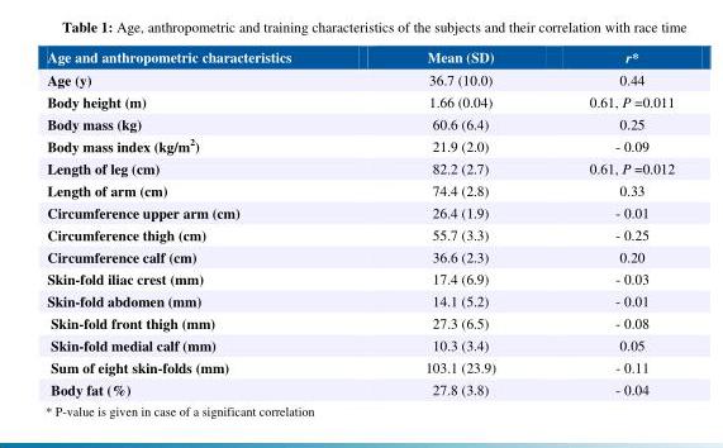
<table><thead><tr><td>Age and anthropometric characteristics</td><td>Mean (SD)</td><td>r*</td></tr></thead><tbody><tr><td>Age (y)</td><td>36.7 (10.0)</td><td>0.44</td></tr><tr><td>Body height (m)</td><td>1.66 (0.04)</td><td>0.61, P =0.011</td></tr><tr><td>Body mass (kg)</td><td>60.6 (6.4)</td><td>0.25</td></tr><tr><td>Body mass index (kg/m<sup>2</sup>)</td><td>21.9 (2.0)</td><td>- 0.09</td></tr><tr><td>Length of leg (cm)</td><td>82.2 (2.7)</td><td>0.61, P =0.012</td></tr><tr><td>Length of arm (cm)</td><td>74.4 (2.8)</td><td>0.33</td></tr><tr><td>Circumference upper arm (cm)</td><td>26.4 (1.9)</td><td>- 0.01</td></tr><tr><td>Circumference thigh (cm)</td><td>55.7 (3.3)</td><td>- 0.25</td></tr><tr><td>Circumference calf (cm)</td><td>36.6 (2.3)</td><td>0.20</td></tr><tr><td>Skin-fold iliac crest (mm)</td><td>17.4 (6.9)</td><td>- 0.03</td></tr><tr><td>Skin-fold abdomen (mm)</td><td>14.1 (5.2)</td><td>- 0.01</td></tr><tr><td>Skin-fold front thigh (mm)</td><td>27.3 (6.5)</td><td>- 0.08</td></tr><tr><td>Skin-fold medial calf (mm)</td><td>10.3 (3.4)</td><td>0.05</td></tr><tr><td>Sum of eight skin-folds (mm)</td><td>103.1 (23.9)</td><td>- 0.11</td></tr><tr><td>Body fat (%)</td><td>27.8 (3.8)</td><td>- 0.04</td></tr></tbody></table>